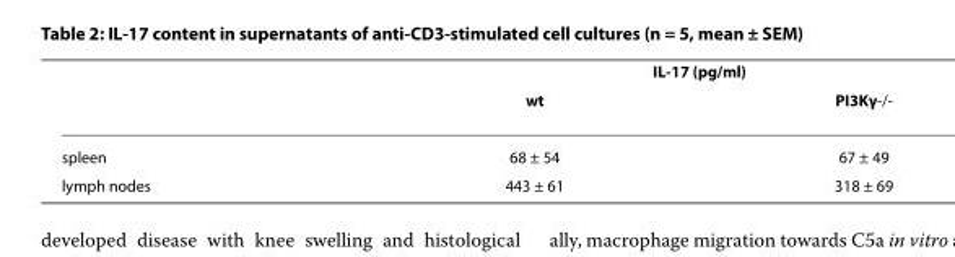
<table><thead><tr><td rowspan="2"></td><td colspan="2">IL-17 (pg/ml)</td></tr><tr><td>wt</td><td>PI3Kγ-/-</td></tr></thead><tbody><tr><td>spleen</td><td>68 ± 54</td><td>67 ± 49</td></tr><tr><td>lymph nodes</td><td>443 ± 61</td><td>318 ± 69</td></tr></tbody></table>